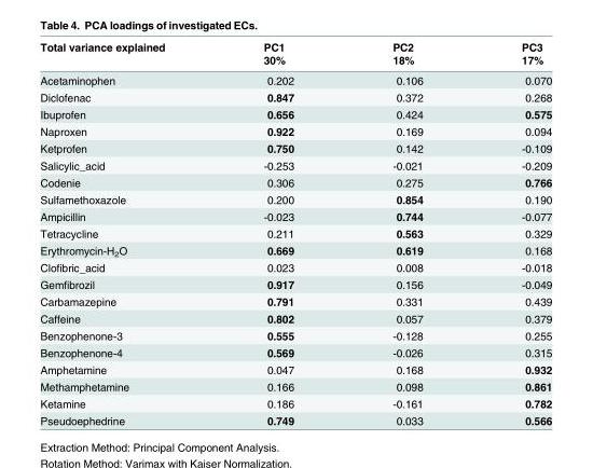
<table><thead><tr><td rowspan="2">Total variance explained</td><td rowspan="2">PC1 30%</td><td rowspan="2">PC2 18%</td><td rowspan="2">PC3 17%</td></tr><tr></tr></thead><tbody><tr><td>Acetaminophen</td><td>0.202</td><td>0.106</td><td>0.070</td></tr><tr><td>Diclofenac</td><td>0.847</td><td>0.372</td><td>0.268</td></tr><tr><td>Ibuprofen</td><td>0.656</td><td>0.424</td><td>0.575</td></tr><tr><td>Naproxen</td><td>0.922</td><td>0.169</td><td>0.094</td></tr><tr><td>Ketprofen</td><td>0.750</td><td>0.142</td><td>-0.109</td></tr><tr><td>Salicylic_acid</td><td>-0.253</td><td>-0.021</td><td>-0.209</td></tr><tr><td>Codenie</td><td>0.306</td><td>0.275</td><td>0.766</td></tr><tr><td>Sulfamethoxazole</td><td>0.200</td><td>0.854</td><td>0.190</td></tr><tr><td>Ampicillin</td><td>-0.023</td><td>0.744</td><td>-0.077</td></tr><tr><td>Tetracycline</td><td>0.211</td><td>0.563</td><td>0.329</td></tr><tr><td>Erythromycin-H<sub>2</sub>O</td><td>0.669</td><td>0.619</td><td>0.168</td></tr><tr><td>Clofibric_acid</td><td>0.023</td><td>0.008</td><td>-0.018</td></tr><tr><td>Gemfibrozil</td><td>0.917</td><td>0.156</td><td>-0.049</td></tr><tr><td>Carbamazepine</td><td>0.791</td><td>0.331</td><td>0.439</td></tr><tr><td>Caffeine</td><td>0.802</td><td>0.057</td><td>0.379</td></tr><tr><td>Benzophenone-3</td><td>0.555</td><td>-0.128</td><td>0.255</td></tr><tr><td>Benzophenone-4</td><td>0.569</td><td>-0.026</td><td>0.315</td></tr><tr><td>Amphetamine</td><td>0.047</td><td>0.168</td><td>0.932</td></tr><tr><td>Methamphetamine</td><td>0.166</td><td>0.098</td><td>0.861</td></tr><tr><td>Ketamine</td><td>0.186</td><td>-0.161</td><td>0.782</td></tr><tr><td>Pseudoephedrine</td><td>0.749</td><td>0.033</td><td>0.566</td></tr></tbody></table>